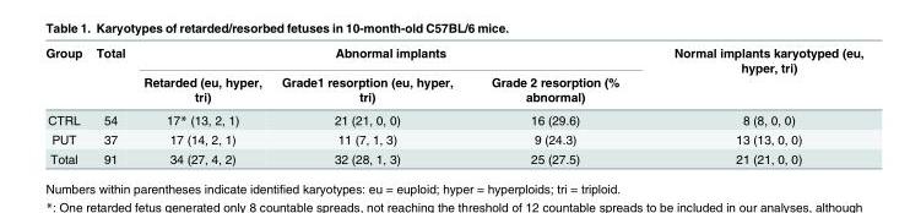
<table><thead><tr><td rowspan="2">Group</td><td rowspan="2">Total</td><td colspan="3">Abnormal implants</td><td rowspan="2">Normal implants karyotyped (eu, hyper, tri)</td></tr><tr><td>Retarded (eu, hyper, tri)</td><td>Grade1 resorption (eu, hyper, tri)</td><td>Grade 2 resorption (% abnormal)</td></tr></thead><tbody><tr><td>CTRL</td><td>54</td><td>17* (13, 2, 1)</td><td>21 (21, 0, 0)</td><td>16 (29.6)</td><td>8 (8, 0, 0)</td></tr><tr><td>PUT</td><td>37</td><td>17 (14, 2, 1)</td><td>11 (7, 1, 3)</td><td>9 (24.3)</td><td>13 (13, 0, 0)</td></tr><tr><td>Total</td><td>91</td><td>34 (27, 4, 2)</td><td>32 (28, 1, 3)</td><td>25 (27.5)</td><td>21 (21, 0, 0)</td></tr></tbody></table>